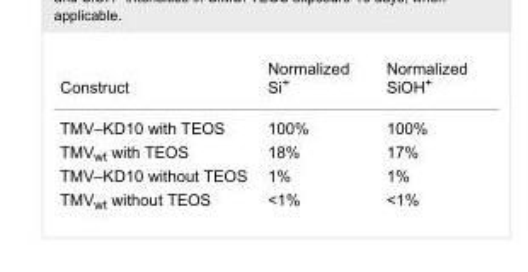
<table><tbody><tr><td>Construct</td><td>Normalized Si<sup>+</sup></td><td>Normalized SiOH<sup>+</sup></td></tr><tr><td>TMV–KD10 with TEOS</td><td>100%</td><td>100%</td></tr><tr><td>TMV<sub>wt</sub> with TEOS</td><td>18%</td><td>17%</td></tr><tr><td>TMV–KD10 without TEOS</td><td>1%</td><td>1%</td></tr><tr><td>TMV<sub>wt</sub> without TEOS</td><td>&lt;1%</td><td>&lt;1%</td></tr></tbody></table>